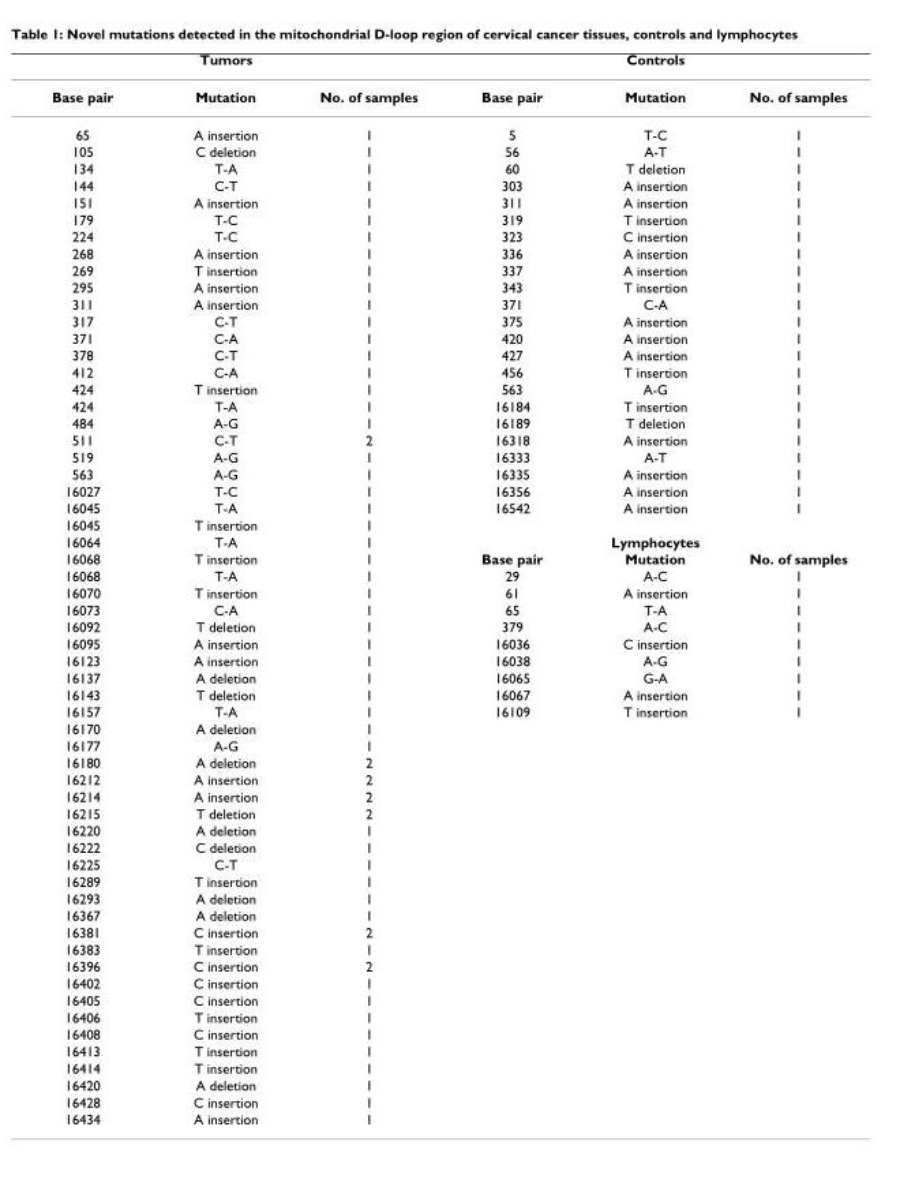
<table><thead><tr><td></td><td>Tumors</td><td></td><td></td><td>Controls</td><td></td></tr></thead><tbody><tr><td>Base pair</td><td>Mutation</td><td>No. of samples</td><td>Base pair</td><td>Mutation</td><td>No. of samples</td></tr><tr><td>65</td><td>A insertion</td><td>1</td><td>5</td><td>T-C</td><td>1</td></tr><tr><td>105</td><td>C deletion</td><td>1</td><td>56</td><td>A-T</td><td>1</td></tr><tr><td>134</td><td>T-A</td><td>1</td><td>60</td><td>T deletion</td><td>1</td></tr><tr><td>144</td><td>C-T</td><td>1</td><td>303</td><td>A insertion</td><td>1</td></tr><tr><td>151</td><td>A insertion</td><td>1</td><td>311</td><td>A insertion</td><td>1</td></tr><tr><td>179</td><td>T-C</td><td>1</td><td>319</td><td>T insertion</td><td>1</td></tr><tr><td>224</td><td>T-C</td><td>1</td><td>323</td><td>C insertion</td><td>1</td></tr><tr><td>268</td><td>A insertion</td><td>1</td><td>336</td><td>A insertion</td><td>1</td></tr><tr><td>269</td><td>T insertion</td><td>1</td><td>337</td><td>A insertion</td><td>1</td></tr><tr><td>295</td><td>A insertion</td><td>1</td><td>343</td><td>T insertion</td><td>1</td></tr><tr><td>311</td><td>A insertion</td><td>1</td><td>371</td><td>C-A</td><td>1</td></tr><tr><td>317</td><td>C-T</td><td>1</td><td>375</td><td>A insertion</td><td>1</td></tr><tr><td>371</td><td>C-A</td><td>1</td><td>420</td><td>A insertion</td><td>1</td></tr><tr><td>378</td><td>C-T</td><td>1</td><td>427</td><td>A insertion</td><td>1</td></tr><tr><td>412</td><td>C-A</td><td>1</td><td>456</td><td>T insertion</td><td>1</td></tr><tr><td>424</td><td>T insertion</td><td>1</td><td>563</td><td>A-G</td><td>1</td></tr><tr><td>424</td><td>T-A</td><td>1</td><td>16184</td><td>T insertion</td><td>1</td></tr><tr><td>484</td><td>A-G</td><td>1</td><td>16189</td><td>T deletion</td><td>1</td></tr><tr><td>511</td><td>C-T</td><td>2</td><td>16318</td><td>A insertion</td><td>1</td></tr><tr><td>519</td><td>A-G</td><td>1</td><td>16333</td><td>A-T</td><td>1</td></tr><tr><td>563</td><td>A-G</td><td>1</td><td>16335</td><td>A insertion</td><td>1</td></tr><tr><td>16027</td><td>T-C</td><td>1</td><td>16356</td><td>A insertion</td><td>1</td></tr><tr><td>16045</td><td>T-A</td><td>1</td><td>16542</td><td>A insertion</td><td>1</td></tr><tr><td>16045</td><td>T insertion</td><td>1</td><td></td><td></td><td></td></tr><tr><td>16064</td><td>T-A</td><td>1</td><td></td><td>Lymphocytes</td><td></td></tr><tr><td>16068</td><td>T insertion</td><td>1</td><td>Base pair</td><td>Mutation</td><td>No. of samples</td></tr><tr><td>16068</td><td>T-A</td><td>1</td><td>29</td><td>A-C</td><td>1</td></tr><tr><td>16070</td><td>T insertion</td><td>1</td><td>61</td><td>A insertion</td><td>1</td></tr><tr><td>16073</td><td>C-A</td><td>1</td><td>65</td><td>T-A</td><td>1</td></tr><tr><td>16092</td><td>T deletion</td><td>1</td><td>379</td><td>A-C</td><td>1</td></tr><tr><td>16095</td><td>A insertion</td><td>1</td><td>16036</td><td>C insertion</td><td>1</td></tr><tr><td>16123</td><td>A insertion</td><td>1</td><td>16038</td><td>A-G</td><td>1</td></tr><tr><td>16137</td><td>A deletion</td><td>1</td><td>16065</td><td>G-A</td><td>1</td></tr><tr><td>16143</td><td>T deletion</td><td>1</td><td>16067</td><td>A insertion</td><td>1</td></tr><tr><td>16157</td><td>T-A</td><td>1</td><td>16109</td><td>T insertion</td><td>1</td></tr><tr><td>16170</td><td>A deletion</td><td>1</td><td></td><td></td><td></td></tr><tr><td>16177</td><td>A-G</td><td>1</td><td></td><td></td><td></td></tr><tr><td>16180</td><td>A deletion</td><td>2</td><td></td><td></td><td></td></tr><tr><td>16212</td><td>A insertion</td><td>2</td><td></td><td></td><td></td></tr><tr><td>16214</td><td>A insertion</td><td>2</td><td></td><td></td><td></td></tr><tr><td>16215</td><td>T deletion</td><td>2</td><td></td><td></td><td></td></tr><tr><td>16220</td><td>A deletion</td><td>1</td><td></td><td></td><td></td></tr><tr><td>16222</td><td>C deletion</td><td>1</td><td></td><td></td><td></td></tr><tr><td>16225</td><td>C-T</td><td>1</td><td></td><td></td><td></td></tr><tr><td>16289</td><td>T insertion</td><td>1</td><td></td><td></td><td></td></tr><tr><td>16293</td><td>A deletion</td><td>1</td><td></td><td></td><td></td></tr><tr><td>16367</td><td>A deletion</td><td>1</td><td></td><td></td><td></td></tr><tr><td>16381</td><td>C insertion</td><td>2</td><td></td><td></td><td></td></tr><tr><td>16383</td><td>T insertion</td><td>1</td><td></td><td></td><td></td></tr><tr><td>16396</td><td>C insertion</td><td>2</td><td></td><td></td><td></td></tr><tr><td>16402</td><td>C insertion</td><td>1</td><td></td><td></td><td></td></tr><tr><td>16405</td><td>C insertion</td><td>1</td><td></td><td></td><td></td></tr><tr><td>16406</td><td>T insertion</td><td>1</td><td></td><td></td><td></td></tr><tr><td>16408</td><td>C insertion</td><td>1</td><td></td><td></td><td></td></tr><tr><td>16413</td><td>T insertion</td><td>1</td><td></td><td></td><td></td></tr><tr><td>16414</td><td>T insertion</td><td>1</td><td></td><td></td><td></td></tr><tr><td>16420</td><td>A deletion</td><td>1</td><td></td><td></td><td></td></tr><tr><td>16428</td><td>C insertion</td><td>1</td><td></td><td></td><td></td></tr><tr><td>16434</td><td>A insertion</td><td>1</td><td></td><td></td><td></td></tr></tbody></table>